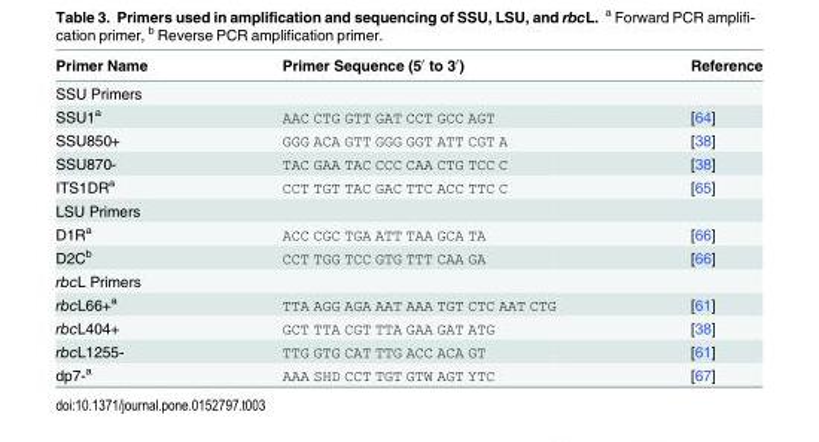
<table><thead><tr><td>Primer Name</td><td>Primer Sequence (5′ to 3′)</td><td>Reference</td></tr></thead><tbody><tr><td colspan="3">SSU Primers</td></tr><tr><td>SSU1<sup>a</sup></td><td>AAC CTG GTT GAT CCT GCC AGT</td><td>[64]</td></tr><tr><td>SSU850+</td><td>GGG ACA GTT GGG GGT ATT CGT A</td><td>[38]</td></tr><tr><td>SSU870-</td><td>TAC GAA TAC CCC CAA CTG TCC C</td><td>[38]</td></tr><tr><td>ITS1DR<sup>a</sup></td><td>CCT TGT TAC GAC TTC ACC TTC C</td><td>[65]</td></tr><tr><td colspan="3">LSU Primers</td></tr><tr><td>D1R<sup>a</sup></td><td>ACC CGC TGA ATT TAA GCA TA</td><td>[66]</td></tr><tr><td>D2C<sup>b</sup></td><td>CCT TGG TCC GTG TTT CAA GA</td><td>[66]</td></tr><tr><td colspan="3">rbcL Primers</td></tr><tr><td>rbcL66+<sup>a</sup></td><td>TTA AGG AGA AAT AAA TGT CTC AAT CTG</td><td>[61]</td></tr><tr><td>rbcL404+</td><td>GCT TTA CGT TTA GAA GAT ATG</td><td>[38]</td></tr><tr><td>rbcL1255-</td><td>TTG GTG CAT TTG ACC ACA GT</td><td>[61]</td></tr><tr><td>dp7-<sup>a</sup></td><td>AAA SHD CCT TGT GTW AGT YTC</td><td>[67]</td></tr></tbody></table>